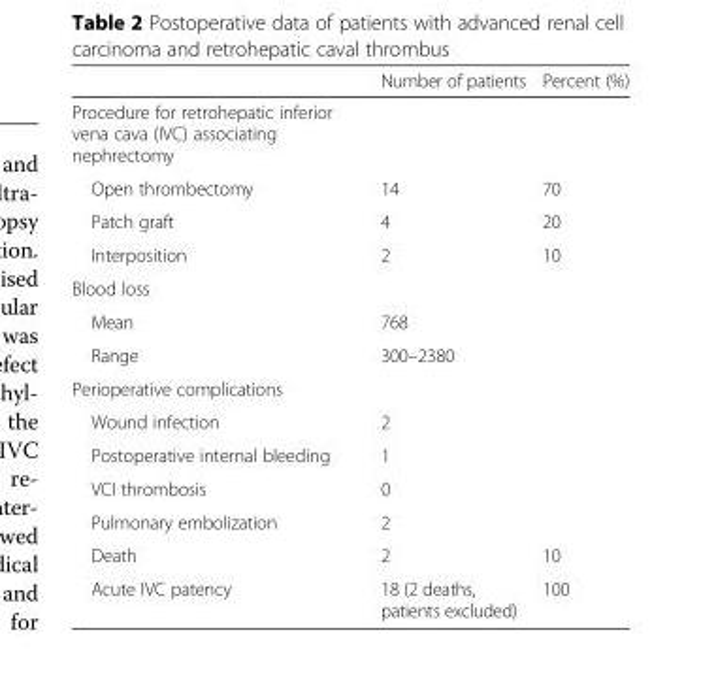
<table><thead><tr><td></td><td>Number of patients</td><td>Percent (%)</td></tr></thead><tbody><tr><td colspan="3">Procedure for retrohepatic inferior vena cava (IVC) associating nephrectomy</td></tr><tr><td>Open thrombectomy</td><td>14</td><td>70</td></tr><tr><td>Patch graft</td><td>4</td><td>20</td></tr><tr><td>Interposition</td><td>2</td><td>10</td></tr><tr><td colspan="3">Blood loss</td></tr><tr><td>Mean</td><td>768</td><td></td></tr><tr><td>Range</td><td>300–2380</td><td></td></tr><tr><td colspan="3">Perioperative complications</td></tr><tr><td>Wound infection</td><td>2</td><td></td></tr><tr><td>Postoperative internal bleeding</td><td>1</td><td></td></tr><tr><td>VCI thrombosis</td><td>0</td><td></td></tr><tr><td>Pulmonary embolization</td><td>2</td><td></td></tr><tr><td>Death</td><td>2</td><td>10</td></tr><tr><td>Acute IVC patency</td><td>18 (2 deaths, patients excluded)</td><td>100</td></tr></tbody></table>